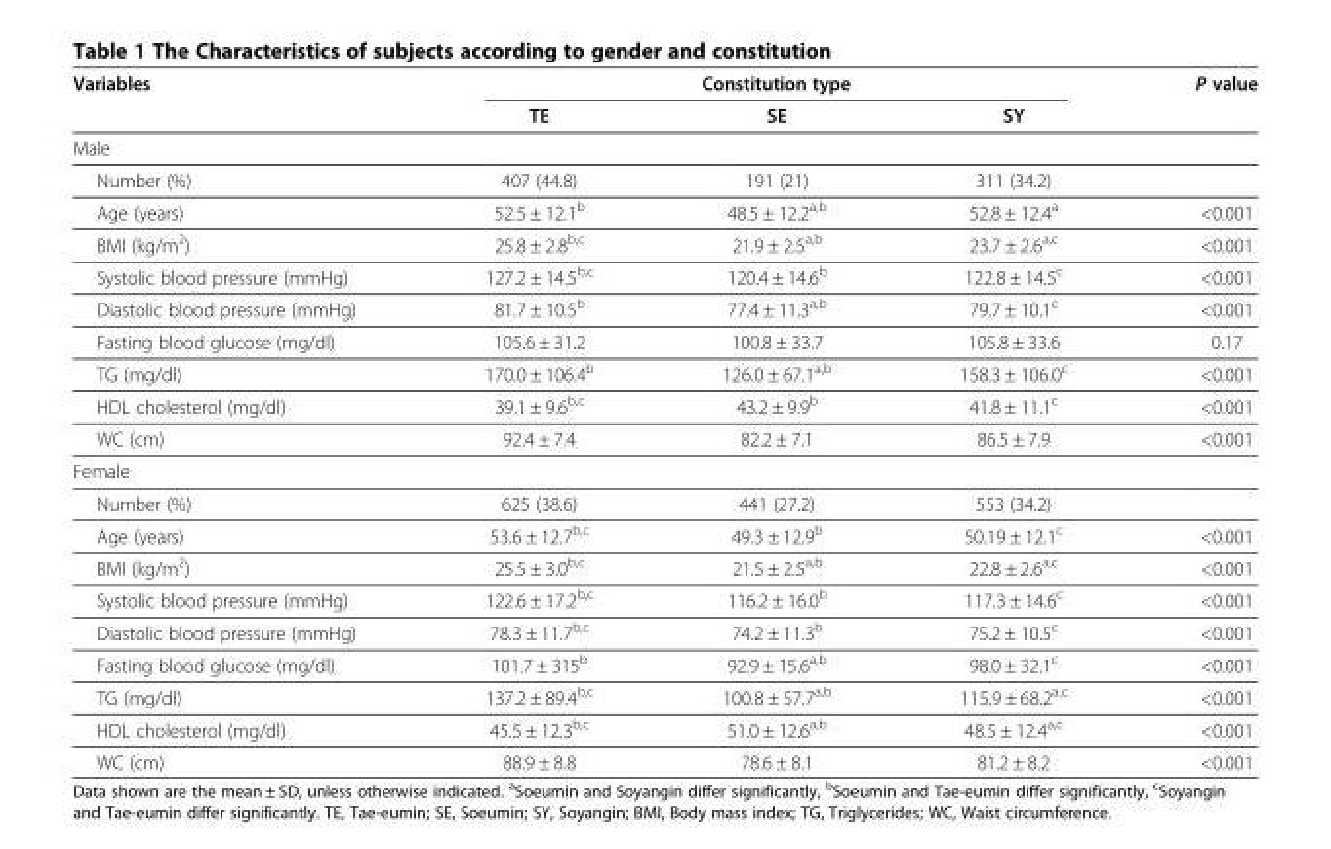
<table><thead><tr><td rowspan="2">Variables</td><td colspan="3">Constitution type</td><td rowspan="2">P value</td></tr><tr><td>TE</td><td>SE</td><td>SY</td></tr></thead><tbody><tr><td colspan="5">Male</td></tr><tr><td>Number (%)</td><td>407 (44.8)</td><td>191 (21)</td><td>311 (34.2)</td><td></td></tr><tr><td>Age (years)</td><td>52.5 ± 12.1<sup>b</sup></td><td>48.5 ± 12.2<sup>a,b</sup></td><td>52.8 ± 12.4<sup>a</sup></td><td>&lt;0.001</td></tr><tr><td>BMI (kg/m<sup>2</sup>)</td><td>25.8 ± 2.8<sup>b,c</sup></td><td>21.9 ± 2.5<sup>a,b</sup></td><td>23.7 ± 2.6<sup>a,c</sup></td><td>&lt;0.001</td></tr><tr><td>Systolic blood pressure (mmHg)</td><td>127.2 ± 14.5<sup>b,c</sup></td><td>120.4 ± 14.6<sup>b</sup></td><td>122.8 ± 14.5<sup>c</sup></td><td>&lt;0.001</td></tr><tr><td>Diastolic blood pressure (mmHg)</td><td>81.7 ± 10.5<sup>b</sup></td><td>77.4 ± 11.3<sup>a,b</sup></td><td>79.7 ± 10.1<sup>c</sup></td><td>&lt;0.001</td></tr><tr><td>Fasting blood glucose (mg/dl)</td><td>105.6 ± 31.2</td><td>100.8 ± 33.7</td><td>105.8 ± 33.6</td><td>0.17</td></tr><tr><td>TG (mg/dl)</td><td>170.0 ± 106.4<sup>b</sup></td><td>126.0 ± 67.1<sup>a,b</sup></td><td>158.3 ± 106.0<sup>c</sup></td><td>&lt;0.001</td></tr><tr><td>HDL cholesterol (mg/dl)</td><td>39.1 ± 9.6<sup>b,c</sup></td><td>43.2 ± 9.9<sup>b</sup></td><td>41.8 ± 11.1<sup>c</sup></td><td>&lt;0.001</td></tr><tr><td>WC (cm)</td><td>92.4 ± 7.4</td><td>82.2 ± 7.1</td><td>86.5 ± 7.9</td><td>&lt;0.001</td></tr><tr><td colspan="5">Female</td></tr><tr><td>Number (%)</td><td>625 (38.6)</td><td>441 (27.2)</td><td>553 (34.2)</td><td></td></tr><tr><td>Age (years)</td><td>53.6 ± 12.7<sup>b,c</sup></td><td>49.3 ± 12.9<sup>b</sup></td><td>50.19 ± 12.1<sup>c</sup></td><td>&lt;0.001</td></tr><tr><td>BMI (kg/m<sup>2</sup>)</td><td>25.5 ± 3.0<sup>b,c</sup></td><td>21.5 ± 2.5<sup>a,b</sup></td><td>22.8 ± 2.6<sup>a,c</sup></td><td>&lt;0.001</td></tr><tr><td>Systolic blood pressure (mmHg)</td><td>122.6 ± 17.2<sup>b,c</sup></td><td>116.2 ± 16.0<sup>b</sup></td><td>117.3 ± 14.6<sup>c</sup></td><td>&lt;0.001</td></tr><tr><td>Diastolic blood pressure (mmHg)</td><td>78.3 ± 11.7<sup>b,c</sup></td><td>74.2 ± 11.3<sup>b</sup></td><td>75.2 ± 10.5<sup>c</sup></td><td>&lt;0.001</td></tr><tr><td>Fasting blood glucose (mg/dl)</td><td>101.7 ± 315<sup>b</sup></td><td>92.9 ± 15.6<sup>a,b</sup></td><td>98.0 ± 32.1<sup>c</sup></td><td>&lt;0.001</td></tr><tr><td>TG (mg/dl)</td><td>137.2 ± 89.4<sup>b,c</sup></td><td>100.8 ± 57.7<sup>a,b</sup></td><td>115.9 ± 68.2<sup>a,c</sup></td><td>&lt;0.001</td></tr><tr><td>HDL cholesterol (mg/dl)</td><td>45.5 ± 12.3<sup>b,c</sup></td><td>51.0 ± 12.6<sup>a,b</sup></td><td>48.5 ± 12.4<sup>a,c</sup></td><td>&lt;0.001</td></tr><tr><td>WC (cm)</td><td>88.9 ± 8.8</td><td>78.6 ± 8.1</td><td>81.2 ± 8.2</td><td>&lt;0.001</td></tr></tbody></table>